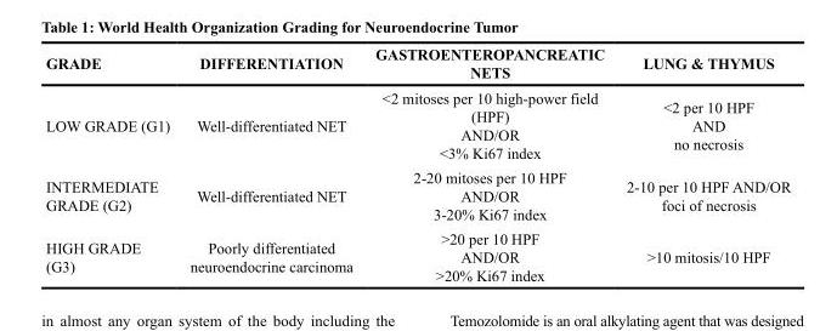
<table><thead><tr><td>GRADE</td><td>DIFFERENTIATION</td><td>GASTROENTEROPANCREATIC NETS</td><td>LUNG &amp; THYMUS</td></tr></thead><tbody><tr><td>LOW GRADE (G1)</td><td>Well-differentiated NET</td><td>&lt;2 mitoses per 10 high-power field (HPF) AND/OR &lt;3% Ki67 index</td><td>&lt;2 per 10 HPF AND no necrosis</td></tr><tr><td>INTERMEDIATE GRADE (G2)</td><td>Well-differentiated NET</td><td>2-20 mitoses per 10 HPF AND/OR 3-20% Ki67 index</td><td>2-10 per 10 HPF AND/OR foci of necrosis</td></tr><tr><td>HIGH GRADE (G3)</td><td>Poorly differentiated neuroendocrine carcinoma</td><td>&gt;20 per 10 HPF AND/OR &gt;20% Ki67 index</td><td>&gt;10 mitosis/10 HPF</td></tr></tbody></table>